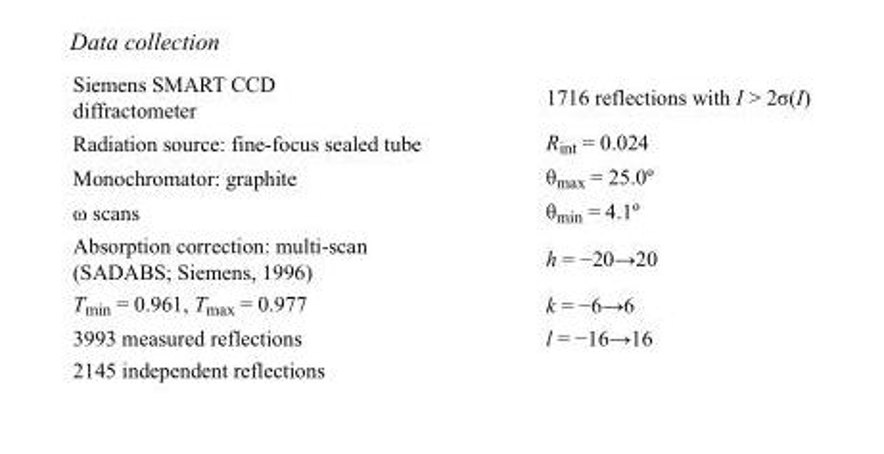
<table><tbody><tr><td>Siemens SMART CCD diffractometer</td><td>1716 reflections with I &gt; 2σ(I)</td></tr><tr><td>Radiation source: fine-focus sealed tube</td><td>R<sub>int</sub> = 0.024</td></tr><tr><td>Monochromator: graphite</td><td>θ<sub>max</sub> = 25.0º</td></tr><tr><td>ω scans</td><td>θ<sub>min</sub> = 4.1º</td></tr><tr><td>Absorption correction: multi-scan (SADABS; Siemens, 1996)</td><td>h = −20→20</td></tr><tr><td>T<sub>min</sub> = 0.961, T<sub>max</sub> = 0.977</td><td>k = −6→6</td></tr><tr><td>3993 measured reflections</td><td>l = −16→16</td></tr><tr><td>2145 independent reflections</td><td></td></tr></tbody></table>